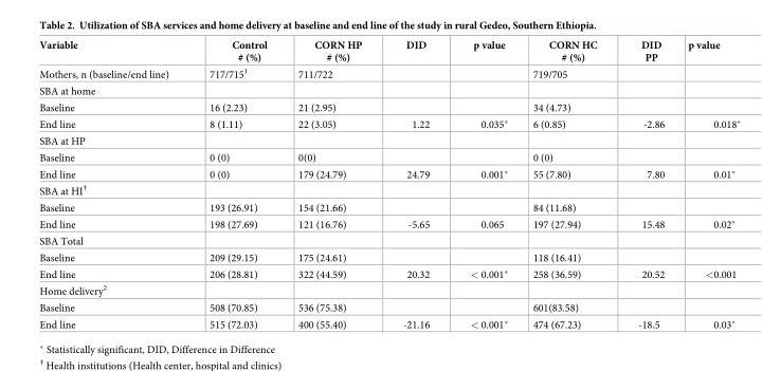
<table><thead><tr><td>Variable</td><td>Control # (%)</td><td>CORN HP # (%)</td><td>DID</td><td>p value</td><td>CORN HC # (%)</td><td>DID PP</td><td>p value</td></tr></thead><tbody><tr><td>Mothers, n (baseline/end line)</td><td>717/715<sup>1</sup></td><td>711/722</td><td></td><td></td><td>719/705</td><td></td><td></td></tr><tr><td colspan="8">SBA at home</td></tr><tr><td>Baseline</td><td>16 (2.23)</td><td>21 (2.95)</td><td></td><td></td><td>34 (4.73)</td><td></td><td></td></tr><tr><td>End line</td><td>8 (1.11)</td><td>22 (3.05)</td><td>1.22</td><td>0.035*</td><td>6 (0.85)</td><td>-2.86</td><td>0.018*</td></tr><tr><td colspan="8">SBA at HP</td></tr><tr><td>Baseline</td><td>0 (0)</td><td>0(0)</td><td></td><td></td><td>0 (0)</td><td></td><td></td></tr><tr><td>End line</td><td>0 (0)</td><td>179 (24.79)</td><td>24.79</td><td>0.001*</td><td>55 (7.80)</td><td>7.80</td><td>0.01*</td></tr><tr><td colspan="8">SBA at HI<sup>†</sup></td></tr><tr><td>Baseline</td><td>193 (26.91)</td><td>154 (21.66)</td><td></td><td></td><td>84 (11.68)</td><td></td><td></td></tr><tr><td>End line</td><td>198 (27.69)</td><td>121 (16.76)</td><td>-5.65</td><td>0.065</td><td>197 (27.94)</td><td>15.48</td><td>0.02*</td></tr><tr><td colspan="8">SBA Total</td></tr><tr><td>Baseline</td><td>209 (29.15)</td><td>175 (24.61)</td><td></td><td></td><td>118 (16.41)</td><td></td><td></td></tr><tr><td>End line</td><td>206 (28.81)</td><td>322 (44.59)</td><td>20.32</td><td>&lt; 0.001*</td><td>258 (36.59)</td><td>20.52</td><td>&lt;0.001</td></tr><tr><td colspan="8">Home delivery<sup>2</sup></td></tr><tr><td>Baseline</td><td>508 (70.85)</td><td>536 (75.38)</td><td></td><td></td><td>601(83.58)</td><td></td><td></td></tr><tr><td>End line</td><td>515 (72.03)</td><td>400 (55.40)</td><td>-21.16</td><td>&lt; 0.001*</td><td>474 (67.23)</td><td>-18.5</td><td>0.03*</td></tr></tbody></table>